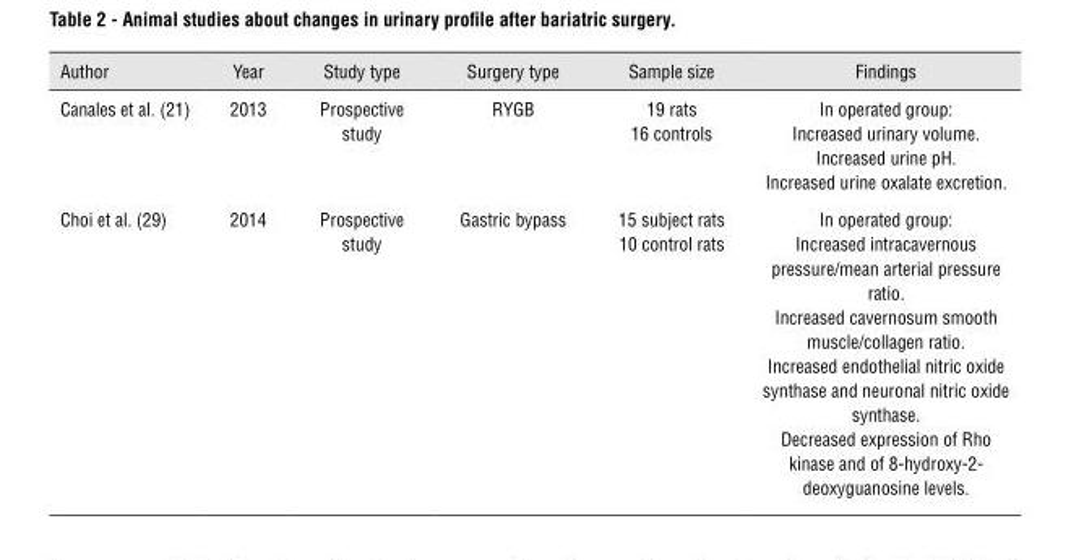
<table><thead><tr><td>Author</td><td>Year</td><td>Study type</td><td>Surgery type</td><td>Sample size</td><td>Findings</td></tr></thead><tbody><tr><td>Canales et al. (21)</td><td>2013</td><td>Prospective study</td><td>RYGB</td><td>19 rats 16 controls</td><td>In operated group: Increased urinary volume. Increased urine pH. Increased urine oxalate excretion.</td></tr><tr><td rowspan="3">Choi et al. (29)</td><td>2014</td><td>Prospective study</td><td>Gastric bypass</td><td>15 subject rats 10 control rats</td><td>In operated group: Increased intracavernous pressure/mean arterial pressure ratio.</td></tr><tr><td></td><td></td><td></td><td></td><td>Increased cavernosum smooth muscle/collagen ratio. Increased endothelial nitric oxide synthase and neuronal nitric oxide synthase.</td></tr><tr><td></td><td></td><td></td><td></td><td>Decreased expression of Rho kinase and of 8-hydroxy-2- deoxyguanosine levels.</td></tr></tbody></table>